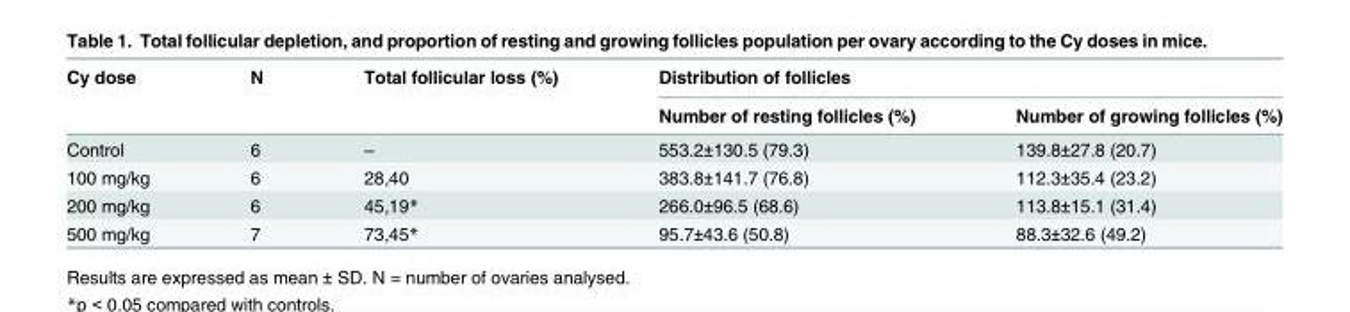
<table><thead><tr><td rowspan="2">Cy dose</td><td rowspan="2">N</td><td rowspan="2">Total follicular loss (%)</td><td colspan="2">Distribution of follicles</td></tr><tr><td>Number of resting follicles (%)</td><td>Number of growing follicles (%)</td></tr></thead><tbody><tr><td>Control</td><td>6</td><td>–</td><td>553.2±130.5 (79.3)</td><td>139.8±27.8 (20.7)</td></tr><tr><td>100 mg/kg</td><td>6</td><td>28,40</td><td>383.8±141.7 (76.8)</td><td>112.3±35.4 (23.2)</td></tr><tr><td>200 mg/kg</td><td>6</td><td>45,19*</td><td>266.0±96.5 (68.6)</td><td>113.8±15.1 (31.4)</td></tr><tr><td>500 mg/kg</td><td>7</td><td>73,45*</td><td>95.7±43.6 (50.8)</td><td>88.3±32.6 (49.2)</td></tr></tbody></table>